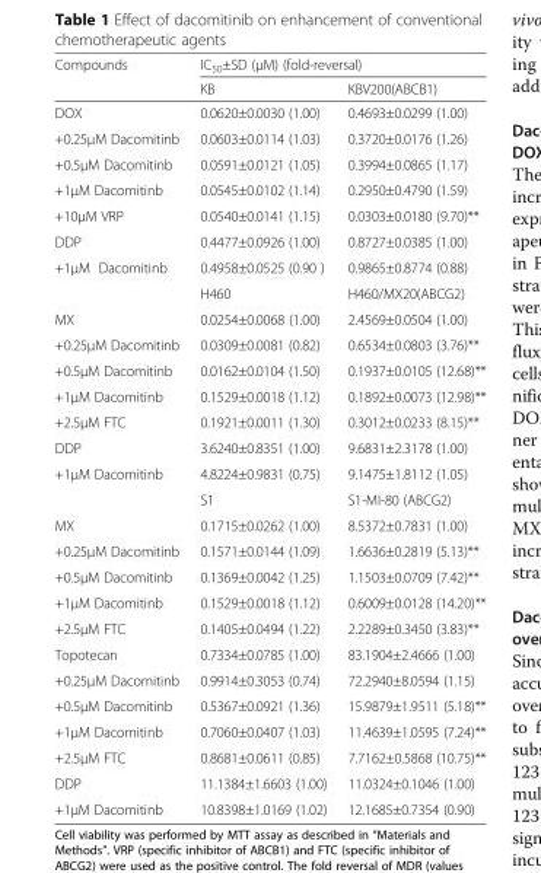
<table><thead><tr><td rowspan="2">Compounds</td><td colspan="2">IC<sub>50</sub>±SD (μM) (fold-reversal)</td></tr><tr><td>KB</td><td>KBV200(ABCB1)</td></tr></thead><tbody><tr><td>DOX</td><td>0.0620±0.0030 (1.00)</td><td>0.4693±0.0299 (1.00)</td></tr><tr><td>+0.25μM Dacomitinb</td><td>0.0603±0.0114 (1.03)</td><td>0.3720±0.0176 (1.26)</td></tr><tr><td>+0.5μM Dacomitinb</td><td>0.0591±0.0121 (1.05)</td><td>0.3994±0.0865 (1.17)</td></tr><tr><td>+1μM Dacomitinb</td><td>0.0545±0.0102 (1.14)</td><td>0.2950±0.4790 (1.59)</td></tr><tr><td>+10μM VRP</td><td>0.0540±0.0141 (1.15)</td><td>0.0303±0.0180 (9.70)**</td></tr><tr><td>DDP</td><td>0.4477±0.0926 (1.00)</td><td>0.8727±0.0385 (1.00)</td></tr><tr><td rowspan="2">+1μM Dacomitinb</td><td>0.4958±0.0525 (0.90 )</td><td>0.9865±0.8774 (0.88)</td></tr><tr><td>H460</td><td>H460/MX20(ABCG2)</td></tr><tr><td>MX</td><td>0.0254±0.0068 (1.00)</td><td>2.4569±0.0504 (1.00)</td></tr><tr><td>+0.25μM Dacomitinb</td><td>0.0309±0.0081 (0.82)</td><td>0.6534±0.0803 (3.76)**</td></tr><tr><td>+0.5μM Dacomitinb</td><td>0.0162±0.0104 (1.50)</td><td>0.1937±0.0105 (12.68)**</td></tr><tr><td>+1μM Dacomitinb</td><td>0.1529±0.0018 (1.12)</td><td>0.1892±0.0073 (12.98)**</td></tr><tr><td>+2.5μM FTC</td><td>0.1921±0.0011 (1.30)</td><td>0.3012±0.0233 (8.15)**</td></tr><tr><td>DDP</td><td>3.6240±0.8351 (1.00)</td><td>9.6831±2.3178 (1.00)</td></tr><tr><td rowspan="2">+1μM Dacomitinb</td><td>4.8224±0.9831 (0.75)</td><td>9.1475±1.8112 (1.05)</td></tr><tr><td>S1</td><td>S1-MI-80 (ABCG2)</td></tr><tr><td>MX</td><td>0.1715±0.0262 (1.00)</td><td>8.5372±0.7831 (1.00)</td></tr><tr><td>+0.25μM Dacomitinb</td><td>0.1571±0.0144 (1.09)</td><td>1.6636±0.2819 (5.13)**</td></tr><tr><td>+0.5μM Dacomitinb</td><td>0.1369±0.0042 (1.25)</td><td>1.1503±0.0709 (7.42)**</td></tr><tr><td>+1μM Dacomitinb</td><td>0.1529±0.0018 (1.12)</td><td>0.6009±0.0128 (14.20)**</td></tr><tr><td>+2.5μM FTC</td><td>0.1405±0.0494 (1.22)</td><td>2.2289±0.3450 (3.83)**</td></tr><tr><td>Topotecan</td><td>0.7334±0.0785 (1.00)</td><td>83.1904±2.4666 (1.00)</td></tr><tr><td>+0.25μM Dacomitinb</td><td>0.9914±0.3053 (0.74)</td><td>72.2940±8.0594 (1.15)</td></tr><tr><td>+0.5μM Dacomitinb</td><td>0.5367±0.0921 (1.36)</td><td>15.9879±1.9511 (5.18)**</td></tr><tr><td>+1μM Dacomitinb</td><td>0.7060±0.0407 (1.03)</td><td>11.4639±1.0595 (7.24)**</td></tr><tr><td>+2.5μM FTC</td><td>0.8681±0.0611 (0.85)</td><td>7.7162±0.5868 (10.75)**</td></tr><tr><td>DDP</td><td>11.1384±1.6603 (1.00)</td><td>11.0324±0.1046 (1.00)</td></tr><tr><td>+1μM Dacomitinb</td><td>10.8398±1.0169 (1.02)</td><td>12.1685±0.7354 (0.90)</td></tr></tbody></table>